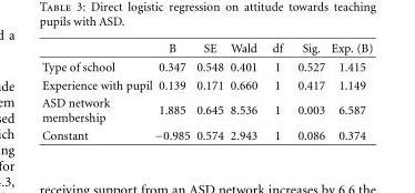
<table><thead><tr><td></td><td>B</td><td>SE</td><td>Wald</td><td>df</td><td>Sig.</td><td>Exp. (B)</td></tr></thead><tbody><tr><td>Type of school</td><td>0.347</td><td>0.548</td><td>0.401</td><td>1</td><td>0.527</td><td>1.415</td></tr><tr><td>Experience with pupil</td><td>0.139</td><td>0.171</td><td>0.660</td><td>1</td><td>0.417</td><td>1.149</td></tr><tr><td>ASD network membership</td><td>1.885</td><td>0.645</td><td>8.536</td><td>1</td><td>0.003</td><td>6.587</td></tr><tr><td>Constant</td><td>−0.985</td><td>0.574</td><td>2.943</td><td>1</td><td>0.086</td><td>0.374</td></tr></tbody></table>